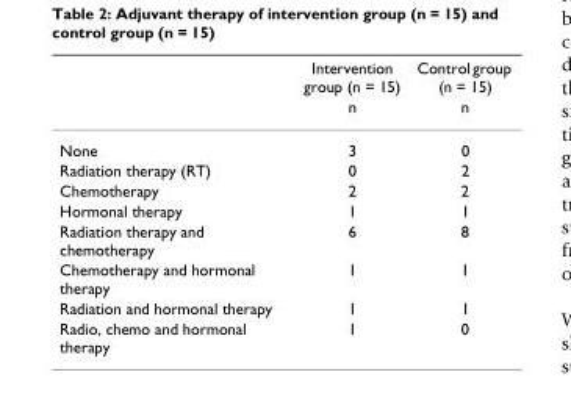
<table><thead><tr><td rowspan="2"></td><td rowspan="2">Intervention group (n = 15) n</td><td rowspan="2">Control group (n = 15) n</td></tr><tr></tr></thead><tbody><tr><td>None</td><td>3</td><td>0</td></tr><tr><td>Radiation therapy (RT)</td><td>0</td><td>2</td></tr><tr><td>Chemotherapy</td><td>2</td><td>2</td></tr><tr><td>Hormonal therapy</td><td>1</td><td>1</td></tr><tr><td>Radiation therapy and chemotherapy</td><td>6</td><td>8</td></tr><tr><td>Chemotherapy and hormonal therapy</td><td>1</td><td>1</td></tr><tr><td>Radiation and hormonal therapy</td><td>1</td><td>1</td></tr><tr><td>Radio, chemo and hormonal therapy</td><td>1</td><td>0</td></tr></tbody></table>